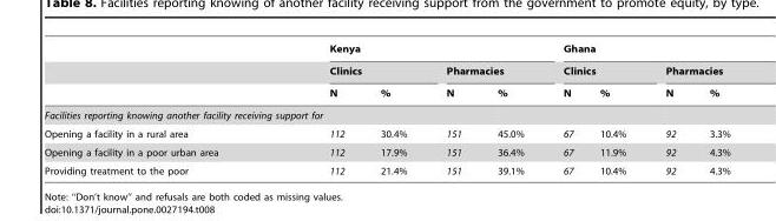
<table><thead><tr><td rowspan="3"></td><td colspan="4">Kenya</td><td colspan="4">Ghana</td></tr><tr><td colspan="2">Clinics</td><td colspan="2">Pharmacies</td><td colspan="2">Clinics</td><td colspan="2">Pharmacies</td></tr><tr><td>N</td><td>%</td><td>N</td><td>%</td><td>N</td><td>%</td><td>N</td><td>%</td></tr></thead><tbody><tr><td colspan="9">Facilities reporting knowing another facility receiving support for</td></tr><tr><td>Opening a facility in a rural area</td><td>112</td><td>30.4%</td><td>151</td><td>45.0%</td><td>67</td><td>10.4%</td><td>92</td><td>3.3%</td></tr><tr><td>Opening a facility in a poor urban area</td><td>112</td><td>17.9%</td><td>151</td><td>36.4%</td><td>67</td><td>11.9%</td><td>92</td><td>4.3%</td></tr><tr><td>Providing treatment to the poor</td><td>112</td><td>21.4%</td><td>151</td><td>39.1%</td><td>67</td><td>10.4%</td><td>92</td><td>4.3%</td></tr></tbody></table>